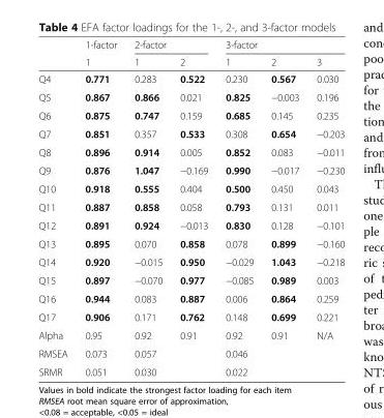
<table><thead><tr><td rowspan="2"></td><td rowspan="2">1-factor 1</td><td colspan="2">2-factor</td><td colspan="3">3-factor</td></tr><tr><td>1</td><td>2</td><td>1</td><td>2</td><td>3</td></tr></thead><tbody><tr><td>Q4</td><td>0.771</td><td>0.283</td><td>0.522</td><td>0.230</td><td>0.567</td><td>0.030</td></tr><tr><td>Q5</td><td>0.867</td><td>0.866</td><td>0.021</td><td>0.825</td><td>−0.003</td><td>0.196</td></tr><tr><td>Q6</td><td>0.875</td><td>0.747</td><td>0.159</td><td>0.685</td><td>0.145</td><td>0.235</td></tr><tr><td>Q7</td><td>0.851</td><td>0.357</td><td>0.533</td><td>0.308</td><td>0.654</td><td>−0.203</td></tr><tr><td>Q8</td><td>0.896</td><td>0.914</td><td>0.005</td><td>0.852</td><td>0.083</td><td>−0.011</td></tr><tr><td>Q9</td><td>0.876</td><td>1.047</td><td>−0.169</td><td>0.990</td><td>−0.017</td><td>−0.230</td></tr><tr><td>Q10</td><td>0.918</td><td>0.555</td><td>0.404</td><td>0.500</td><td>0.450</td><td>0.043</td></tr><tr><td>Q11</td><td>0.887</td><td>0.858</td><td>0.058</td><td>0.793</td><td>0.131</td><td>0.011</td></tr><tr><td>Q12</td><td>0.891</td><td>0.924</td><td>−0.013</td><td>0.830</td><td>0.128</td><td>−0.101</td></tr><tr><td>Q13</td><td>0.895</td><td>0.070</td><td>0.858</td><td>0.078</td><td>0.899</td><td>−0.160</td></tr><tr><td>Q14</td><td>0.920</td><td>−0.015</td><td>0.950</td><td>−0.029</td><td>1.043</td><td>−0.218</td></tr><tr><td>Q15</td><td>0.897</td><td>−0.070</td><td>0.977</td><td>−0.085</td><td>0.989</td><td>0.003</td></tr><tr><td>Q16</td><td>0.944</td><td>0.083</td><td>0.887</td><td>0.006</td><td>0.864</td><td>0.259</td></tr><tr><td>Q17</td><td>0.906</td><td>0.171</td><td>0.762</td><td>0.148</td><td>0.699</td><td>0.221</td></tr><tr><td>Alpha</td><td>0.95</td><td>0.92</td><td>0.91</td><td>0.92</td><td>0.91</td><td>N/A</td></tr><tr><td>RMSEA</td><td>0.073</td><td>0.057</td><td></td><td>0.046</td><td></td><td></td></tr><tr><td>SRMR</td><td>0.051</td><td>0.030</td><td></td><td>0.022</td><td></td><td></td></tr></tbody></table>